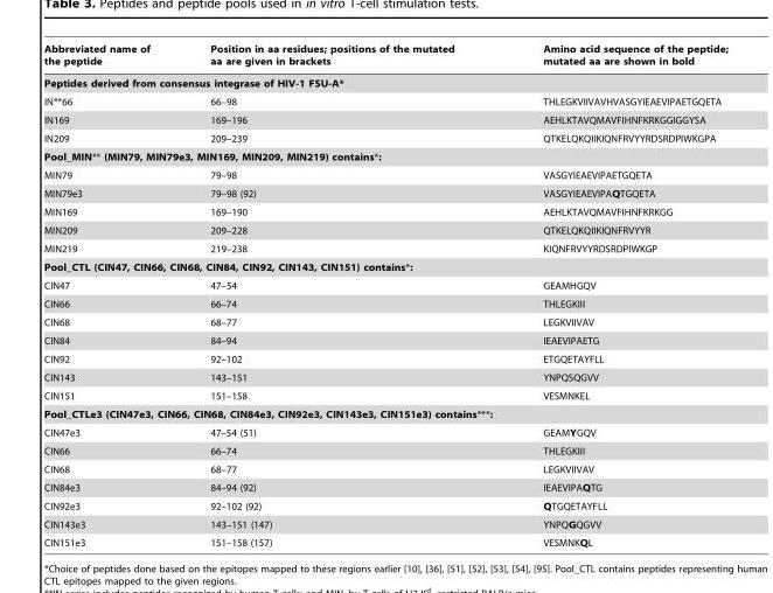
<table><thead><tr><td>Abbreviated name of the peptide</td><td>Position in aa residues; positions of the mutated aa are given in brackets</td><td>Amino acid sequence of the peptide; mutated aa are shown in bold</td></tr></thead><tbody><tr><td colspan="3">Peptides derived from consensus integrase of HIV-1 FSU-A*</td></tr><tr><td>IN**66</td><td>66–98</td><td>THLEGKVIIVAVHVASGYIEAEVIPAETGQETA</td></tr><tr><td>IN169</td><td>169–196</td><td>AEHLKTAVQMAVFIHNFKRKGGIGGYSA</td></tr><tr><td>IN209</td><td>209–239</td><td>QTKELQKQIIKIQNFRVYYRDSRDPIWKGPA</td></tr><tr><td colspan="3">Pool_MIN** (MIN79, MIN79e3, MIN169, MIN209, MIN219) contains*:</td></tr><tr><td>MIN79</td><td>79–98</td><td>VASGYIEAEVIPAETGQETA</td></tr><tr><td>MIN79e3</td><td>79–98 (92)</td><td>VASGYIEAEVIPAQTGQETA</td></tr><tr><td>MIN169</td><td>169–190</td><td>AEHLKTAVQMAVFIHNFKRKGG</td></tr><tr><td>MIN209</td><td>209–228</td><td>QTKELQKQIIKIQNFRVYYR</td></tr><tr><td>MIN219</td><td>219–238</td><td>KIQNFRVYYRDSRDPIWKGP</td></tr><tr><td colspan="3">Pool_CTL (CIN47, CIN66, CIN68, CIN84, CIN92, CIN143, CIN151) contains*:</td></tr><tr><td>CIN47</td><td>47–54</td><td>GEAMHGQV</td></tr><tr><td>CIN66</td><td>66–74</td><td>THLEGKIII</td></tr><tr><td>CIN68</td><td>68–77</td><td>LEGKVIIVAV</td></tr><tr><td>CIN84</td><td>84–94</td><td>IEAEVIPAETG</td></tr><tr><td>CIN92</td><td>92–102</td><td>ETGQETAYFLL</td></tr><tr><td>CIN143</td><td>143–151</td><td>YNPQSQGVV</td></tr><tr><td>CIN151</td><td>151–158</td><td>VESMNKEL</td></tr><tr><td colspan="3">Pool_CTLe3 (CIN47e3, CIN66, CIN68, CIN84e3, CIN92e3, CIN143e3, CIN151e3) contains***:</td></tr><tr><td>CIN47e3</td><td>47–54 (51)</td><td>GEAMYGQV</td></tr><tr><td>CIN66</td><td>66–74</td><td>THLEGKIII</td></tr><tr><td>CIN68</td><td>68–77</td><td>LEGKVIIVAV</td></tr><tr><td>CIN84e3</td><td>84–94 (92)</td><td>IEAEVIPAQTG</td></tr><tr><td>CIN92e3</td><td>92–102 (92)</td><td>QTGQETAYFLL</td></tr><tr><td>CIN143e3</td><td>143–151 (147)</td><td>YNPQGQGVV</td></tr><tr><td>CIN151e3</td><td>151–158 (157)</td><td>VESMNKQL</td></tr></tbody></table>